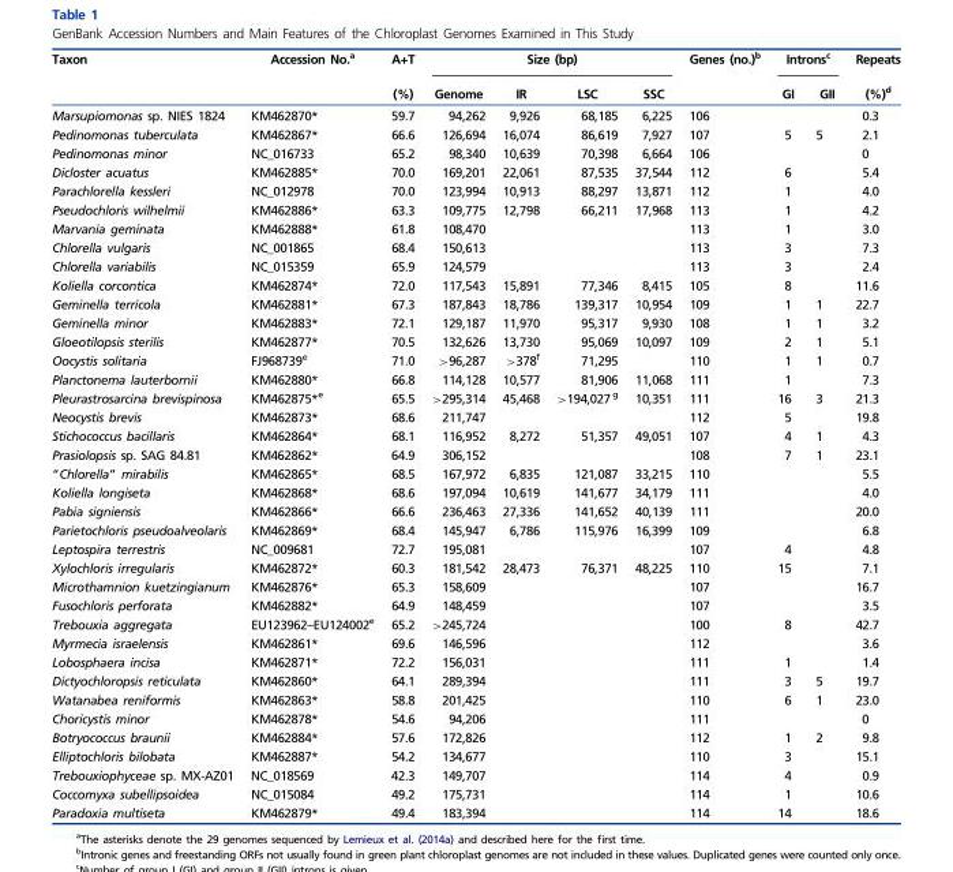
<table><thead><tr><td rowspan="2">Taxon</td><td rowspan="2">Accession No.<sup>a</sup></td><td rowspan="2">A+T (%)</td><td colspan="4">Size (bp)</td><td rowspan="2">Genes (no.)<sup>b</sup></td><td colspan="2">Introns<sup>c</sup></td><td rowspan="2">Repeats (%)<sup>d</sup></td></tr><tr><td>Genome</td><td>IR</td><td>LSC</td><td>SSC</td><td>GI</td><td>GII</td></tr></thead><tbody><tr><td>Marsupiomonas sp. NIES 1824</td><td>KM462870*</td><td>59.7</td><td>94,262</td><td>9,926</td><td>68,185</td><td>6,225</td><td>106</td><td></td><td></td><td>0.3</td></tr><tr><td>Pedinomonas tuberculata</td><td>KM462867*</td><td>66.6</td><td>126,694</td><td>16,074</td><td>86,619</td><td>7,927</td><td>107</td><td>5</td><td>5</td><td>2.1</td></tr><tr><td>Pedinomonas minor</td><td>NC_016733</td><td>65.2</td><td>98,340</td><td>10,639</td><td>70,398</td><td>6,664</td><td>106</td><td></td><td></td><td>0</td></tr><tr><td>Dicloster acuatus</td><td>KM462885*</td><td>70.0</td><td>169,201</td><td>22,061</td><td>87,535</td><td>37,544</td><td>112</td><td>6</td><td></td><td>5.4</td></tr><tr><td>Parachlorella kessleri</td><td>NC_012978</td><td>70.0</td><td>123,994</td><td>10,913</td><td>88,297</td><td>13,871</td><td>112</td><td>1</td><td></td><td>4.0</td></tr><tr><td>Pseudochloris wilhelmii</td><td>KM462886*</td><td>63.3</td><td>109,775</td><td>12,798</td><td>66,211</td><td>17,968</td><td>113</td><td>1</td><td></td><td>4.2</td></tr><tr><td>Marvania geminata</td><td>KM462888*</td><td>61.8</td><td>108,470</td><td></td><td></td><td></td><td>113</td><td>1</td><td></td><td>3.0</td></tr><tr><td>Chlorella vulgaris</td><td>NC_001865</td><td>68.4</td><td>150,613</td><td></td><td></td><td></td><td>113</td><td>3</td><td></td><td>7.3</td></tr><tr><td>Chlorella variabilis</td><td>NC_015359</td><td>65.9</td><td>124,579</td><td></td><td></td><td></td><td>113</td><td>3</td><td></td><td>2.4</td></tr><tr><td>Koliella corcontica</td><td>KM462874*</td><td>72.0</td><td>117,543</td><td>15,891</td><td>77,346</td><td>8,415</td><td>105</td><td>8</td><td></td><td>11.6</td></tr><tr><td>Geminella terricola</td><td>KM462881*</td><td>67.3</td><td>187,843</td><td>18,786</td><td>139,317</td><td>10,954</td><td>109</td><td>1</td><td>1</td><td>22.7</td></tr><tr><td>Geminella minor</td><td>KM462883*</td><td>72.1</td><td>129,187</td><td>11,970</td><td>95,317</td><td>9,930</td><td>108</td><td>1</td><td>1</td><td>3.2</td></tr><tr><td>Gloeotilopsis sterilis</td><td>KM462877*</td><td>70.5</td><td>132,626</td><td>13,730</td><td>95,069</td><td>10,097</td><td>109</td><td>2</td><td>1</td><td>5.1</td></tr><tr><td>Oocystis solitaria</td><td>FJ968739<sup>e</sup></td><td>71.0</td><td>&gt;96,287</td><td>&gt;378<sup>f</sup></td><td>71,295</td><td></td><td>110</td><td>1</td><td>1</td><td>0.7</td></tr><tr><td>Planctonema lauterbornii</td><td>KM462880*</td><td>66.8</td><td>114,128</td><td>10,577</td><td>81,906</td><td>11,068</td><td>111</td><td>1</td><td></td><td>7.3</td></tr><tr><td>Pleurastrosarcina brevispinosa</td><td>KM462875*<sup>e</sup></td><td>65.5</td><td>&gt;295,314</td><td>45,468</td><td>&gt;194,027 <sup>g</sup></td><td>10,351</td><td>111</td><td>16</td><td>3</td><td>21.3</td></tr><tr><td>Neocystis brevis</td><td>KM462873*</td><td>68.6</td><td>211,747</td><td></td><td></td><td></td><td>112</td><td>5</td><td></td><td>19.8</td></tr><tr><td>Stichococcus bacillaris</td><td>KM462864*</td><td>68.1</td><td>116,952</td><td>8,272</td><td>51,357</td><td>49,051</td><td>107</td><td>4</td><td>1</td><td>4.3</td></tr><tr><td>Prasiolopsis sp. SAG 84.81</td><td>KM462862*</td><td>64.9</td><td>306,152</td><td></td><td></td><td></td><td>108</td><td>7</td><td>1</td><td>23.1</td></tr><tr><td>“Chlorella” mirabilis</td><td>KM462865*</td><td>68.5</td><td>167,972</td><td>6,835</td><td>121,087</td><td>33,215</td><td>110</td><td></td><td></td><td>5.5</td></tr><tr><td>Koliella longiseta</td><td>KM462868*</td><td>68.6</td><td>197,094</td><td>10,619</td><td>141,677</td><td>34,179</td><td>111</td><td></td><td></td><td>4.0</td></tr><tr><td>Pabia signiensis</td><td>KM462866*</td><td>66.6</td><td>236,463</td><td>27,336</td><td>141,652</td><td>40,139</td><td>111</td><td></td><td></td><td>20.0</td></tr><tr><td>Parietochloris pseudoalveolaris</td><td>KM462869*</td><td>68.4</td><td>145,947</td><td>6,786</td><td>115,976</td><td>16,399</td><td>109</td><td></td><td></td><td>6.8</td></tr><tr><td>Leptospira terrestris</td><td>NC_009681</td><td>72.7</td><td>195,081</td><td></td><td></td><td></td><td>107</td><td>4</td><td></td><td>4.8</td></tr><tr><td>Xylochloris irregularis</td><td>KM462872*</td><td>60.3</td><td>181,542</td><td>28,473</td><td>76,371</td><td>48,225</td><td>110</td><td>15</td><td></td><td>7.1</td></tr><tr><td>Microthamnion kuetzingianum</td><td>KM462876*</td><td>65.3</td><td>158,609</td><td></td><td></td><td></td><td>107</td><td></td><td></td><td>16.7</td></tr><tr><td>Fusochloris perforata</td><td>KM462882*</td><td>64.9</td><td>148,459</td><td></td><td></td><td></td><td>107</td><td></td><td></td><td>3.5</td></tr><tr><td>Trebouxia aggregata</td><td>EU123962–EU124002<sup>e</sup></td><td>65.2</td><td>&gt;245,724</td><td></td><td></td><td></td><td>100</td><td>8</td><td></td><td>42.7</td></tr><tr><td>Myrmecia israelensis</td><td>KM462861*</td><td>69.6</td><td>146,596</td><td></td><td></td><td></td><td>112</td><td></td><td></td><td>3.6</td></tr><tr><td>Lobosphaera incisa</td><td>KM462871*</td><td>72.2</td><td>156,031</td><td></td><td></td><td></td><td>111</td><td>1</td><td></td><td>1.4</td></tr><tr><td>Dictyochloropsis reticulata</td><td>KM462860*</td><td>64.1</td><td>289,394</td><td></td><td></td><td></td><td>111</td><td>3</td><td>5</td><td>19.7</td></tr><tr><td>Watanabea reniformis</td><td>KM462863*</td><td>58.8</td><td>201,425</td><td></td><td></td><td></td><td>110</td><td>6</td><td>1</td><td>23.0</td></tr><tr><td>Choricystis minor</td><td>KM462878*</td><td>54.6</td><td>94,206</td><td></td><td></td><td></td><td>111</td><td></td><td></td><td>0</td></tr><tr><td>Botryococcus braunii</td><td>KM462884*</td><td>57.6</td><td>172,826</td><td></td><td></td><td></td><td>112</td><td>1</td><td>2</td><td>9.8</td></tr><tr><td>Elliptochloris bilobata</td><td>KM462887*</td><td>54.2</td><td>134,677</td><td></td><td></td><td></td><td>110</td><td>3</td><td></td><td>15.1</td></tr><tr><td>Trebouxiophyceae sp. MX-AZ01</td><td>NC_018569</td><td>42.3</td><td>149,707</td><td></td><td></td><td></td><td>114</td><td>4</td><td></td><td>0.9</td></tr><tr><td>Coccomyxa subellipsoidea</td><td>NC_015084</td><td>49.2</td><td>175,731</td><td></td><td></td><td></td><td>114</td><td>1</td><td></td><td>10.6</td></tr><tr><td>Paradoxia multiseta</td><td>KM462879*</td><td>49.4</td><td>183,394</td><td></td><td></td><td></td><td>114</td><td>14</td><td></td><td>18.6</td></tr></tbody></table>